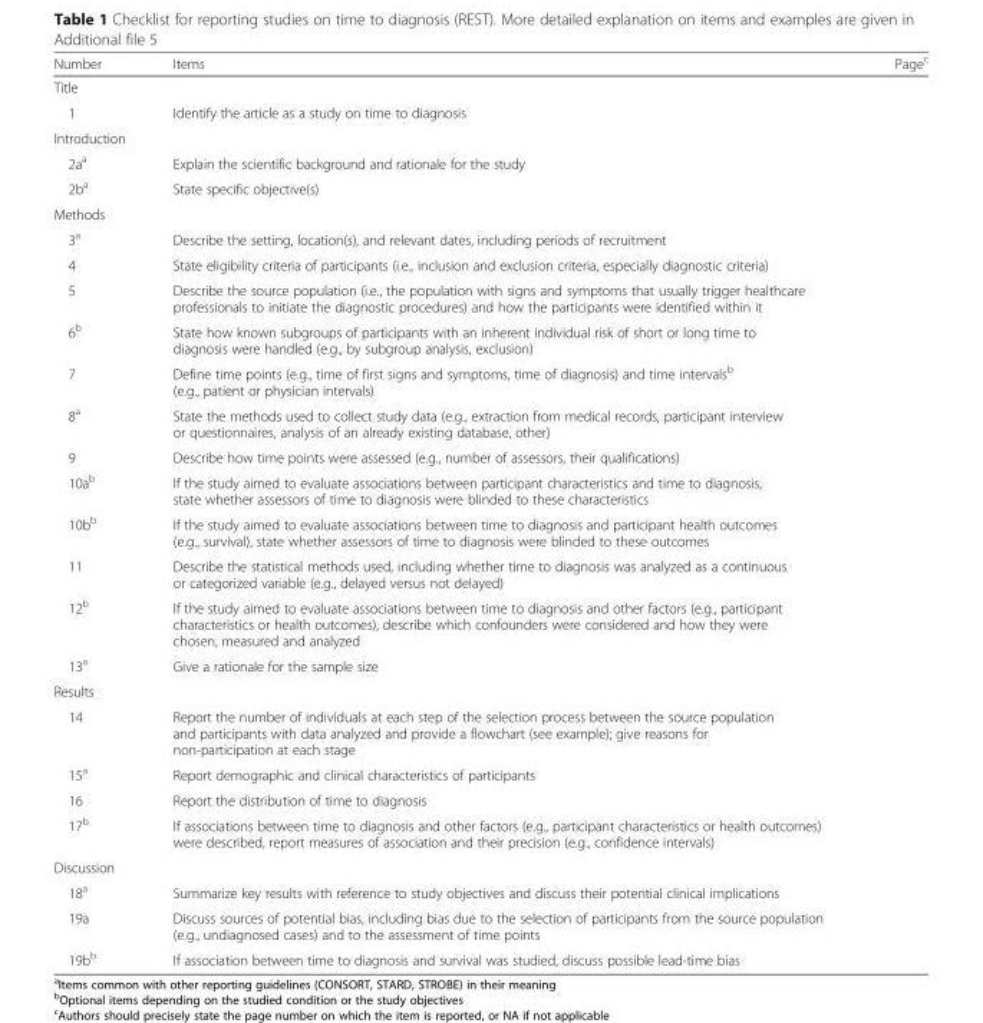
<table><thead><tr><td>Number</td><td>Items</td><td>Page<sup>c</sup></td></tr></thead><tbody><tr><td colspan="3">Title</td></tr><tr><td>1</td><td>Identify the article as a study on time to diagnosis</td><td></td></tr><tr><td colspan="3">Introduction</td></tr><tr><td>2a<sup>a</sup></td><td>Explain the scientific background and rationale for the study</td><td></td></tr><tr><td>2b<sup>a</sup></td><td>State specific objective(s)</td><td></td></tr><tr><td colspan="3">Methods</td></tr><tr><td>3<sup>a</sup></td><td>Describe the setting, location(s), and relevant dates, including periods of recruitment</td><td></td></tr><tr><td>4</td><td>State eligibility criteria of participants (i.e., inclusion and exclusion criteria, especially diagnostic criteria)</td><td></td></tr><tr><td>5</td><td>Describe the source population (i.e., the population with signs and symptoms that usually trigger healthcare professionals to initiate the diagnostic procedures) and how the participants were identified within it</td><td></td></tr><tr><td>6<sup>b</sup></td><td>State how known subgroups of participants with an inherent individual risk of short or long time to diagnosis were handled (e.g., by subgroup analysis, exclusion)</td><td></td></tr><tr><td>7</td><td>Define time points (e.g., time of first signs and symptoms, time of diagnosis) and time intervals<sup>b</sup> (e.g., patient or physician intervals)</td><td></td></tr><tr><td>8<sup>a</sup></td><td>State the methods used to collect study data (e.g., extraction from medical records, participant interview or questionnaires, analysis of an already existing database, other)</td><td></td></tr><tr><td>9</td><td>Describe how time points were assessed (e.g., number of assessors, their qualifications)</td><td></td></tr><tr><td>10a<sup>b</sup></td><td>If the study aimed to evaluate associations between participant characteristics and time to diagnosis, state whether assessors of time to diagnosis were blinded to these characteristics</td><td></td></tr><tr><td>10b<sup>b</sup></td><td>If the study aimed to evaluate associations between time to diagnosis and participant health outcomes (e.g., survival), state whether assessors of time to diagnosis were blinded to these outcomes</td><td></td></tr><tr><td>11</td><td>Describe the statistical methods used, including whether time to diagnosis was analyzed as a continuous or categorized variable (e.g., delayed versus not delayed)</td><td></td></tr><tr><td>12<sup>b</sup></td><td>If the study aimed to evaluate associations between time to diagnosis and other factors (e.g., participant characteristics or health outcomes), describe which confounders were considered and how they were chosen, measured and analyzed</td><td></td></tr><tr><td>13<sup>a</sup></td><td>Give a rationale for the sample size</td><td></td></tr><tr><td colspan="3">Results</td></tr><tr><td>14</td><td>Report the number of individuals at each step of the selection process between the source population and participants with data analyzed and provide a flowchart (see example); give reasons for non-participation at each stage</td><td></td></tr><tr><td>15<sup>a</sup></td><td>Report demographic and clinical characteristics of participants</td><td></td></tr><tr><td>16</td><td>Report the distribution of time to diagnosis</td><td></td></tr><tr><td>17<sup>b</sup></td><td>If associations between time to diagnosis and other factors (e.g., participant characteristics or health outcomes) were described, report measures of association and their precision (e.g., confidence intervals)</td><td></td></tr><tr><td colspan="3">Discussion</td></tr><tr><td>18<sup>a</sup></td><td>Summarize key results with reference to study objectives and discuss their potential clinical implications</td><td></td></tr><tr><td>19a</td><td>Discuss sources of potential bias, including bias due to the selection of participants from the source population (e.g., undiagnosed cases) and to the assessment of time points</td><td></td></tr><tr><td>19b<sup>b</sup></td><td>If association between time to diagnosis and survival was studied, discuss possible lead-time bias</td><td></td></tr></tbody></table>